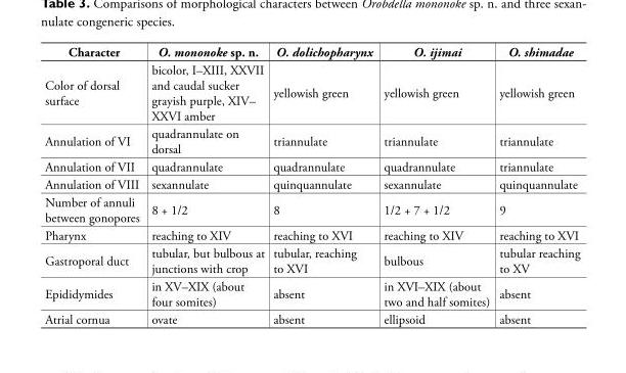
<table><thead><tr><td>Character</td><td>O. mononoke sp. n.</td><td>O. dolichopharynx</td><td>O. ijimai</td><td>O. shimadae</td></tr></thead><tbody><tr><td>Color of dorsal surface</td><td>bicolor, I–XIII, XXVII and caudal sucker grayish purple, XIV– XXVI amber</td><td>yellowish green</td><td>yellowish green</td><td>yellowish green</td></tr><tr><td>Annulation of VI</td><td>quadrannulate on dorsal</td><td>triannulate</td><td>triannulate</td><td>triannulate</td></tr><tr><td>Annulation of VII</td><td>quadrannulate</td><td>quadrannulate</td><td>quadrannulate</td><td>triannulate</td></tr><tr><td>Annulation of VIII</td><td>sexannulate</td><td>quinquannulate</td><td>sexannulate</td><td>quinquannulate</td></tr><tr><td>Number of annuli between gonopores</td><td>8 + 1/2</td><td>8</td><td>1/2 + 7 + 1/2</td><td>9</td></tr><tr><td>Pharynx</td><td>reaching to XIV</td><td>reaching to XVI</td><td>reaching to XIV</td><td>reaching to XVI</td></tr><tr><td>Gastroporal duct</td><td>tubular, but bulbous at junctions with crop</td><td>tubular, reaching to XVI</td><td>bulbous</td><td>tubular reaching to XV</td></tr><tr><td>Epididymides</td><td>in XV–XIX (about four somites)</td><td>absent</td><td>in XVI–XIX (about two and half somites)</td><td>absent</td></tr><tr><td>Atrial cornua</td><td>ovate</td><td>absent</td><td>ellipsoid</td><td>absent</td></tr></tbody></table>